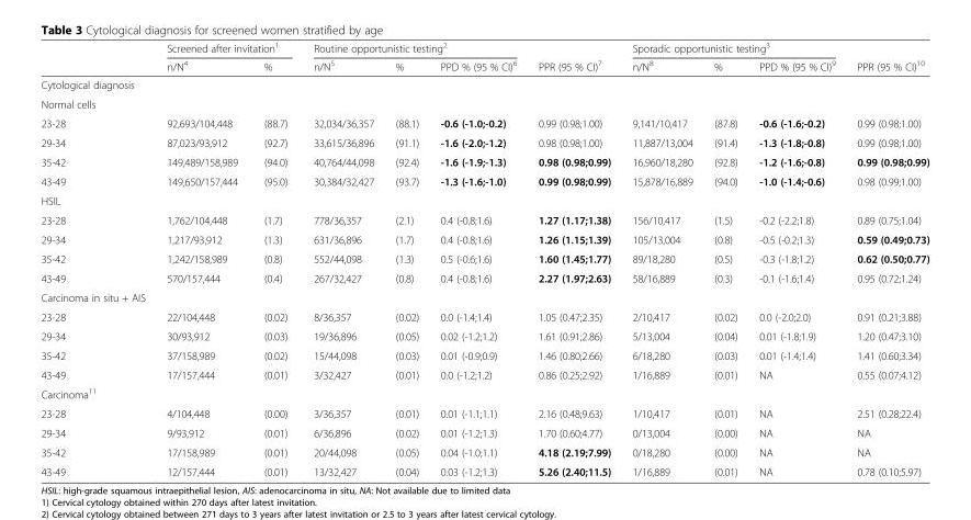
<table><thead><tr><td rowspan="2"></td><td colspan="2">Screened after invitation<sup>1</sup></td><td colspan="3">Routine opportunistic testing<sup>2</sup></td><td rowspan="2">PPR (95 % CI)<sup>7</sup></td><td colspan="3">Sporadic opportunistic testing<sup>3</sup></td><td rowspan="2">PPR (95 % CI)<sup>10</sup></td></tr><tr><td>n/N<sup>4</sup></td><td>%</td><td>n/N<sup>5</sup></td><td>%</td><td>PPD % (95 % CI)<sup>6</sup></td><td>n/N<sup>8</sup></td><td>%</td><td>PPD % (95 % CI)<sup>9</sup></td></tr></thead><tbody><tr><td colspan="11">Cytological diagnosis</td></tr><tr><td colspan="11">Normal cells</td></tr><tr><td>23-28</td><td>92,693/104,448</td><td>(88.7)</td><td>32,034/36,357</td><td>(88.1)</td><td>-0.6 (-1.0;-0.2)</td><td>0.99 (0.98;1.00)</td><td>9,141/10,417</td><td>(87.8)</td><td>-0.6 (-1.6;-0.2)</td><td>0.99 (0.98;1.00)</td></tr><tr><td>29-34</td><td>87,023/93,912</td><td>(92.7)</td><td>33,615/36,896</td><td>(91.1)</td><td>-1.6 (-2.0;-1.2)</td><td>0.98 (0.98;1.00)</td><td>11,887/13,004</td><td>(91.4)</td><td>-1.3 (-1.8;-0.8)</td><td>0.99 (0.98;1.00)</td></tr><tr><td>35-42</td><td>149,489/158,989</td><td>(94.0)</td><td>40,764/44,098</td><td>(92.4)</td><td>-1.6 (-1.9;-1.3)</td><td>0.98 (0.98;0.99)</td><td>16,960/18,280</td><td>(92.8)</td><td>-1.2 (-1.6;-0.8)</td><td>0.99 (0.98;0.99)</td></tr><tr><td>43-49</td><td>149,650/157,444</td><td>(95.0)</td><td>30,384/32,427</td><td>(93.7)</td><td>-1.3 (-1.6;-1.0)</td><td>0.99 (0.98;0.99)</td><td>15,878/16,889</td><td>(94.0)</td><td>-1.0 (-1.4;-0.6)</td><td>0.98 (0.99;1.00)</td></tr><tr><td colspan="11">HSIL</td></tr><tr><td>23-28</td><td>1,762/104,448</td><td>(1.7)</td><td>778/36,357</td><td>(2.1)</td><td>0.4 (-0.8;1.6)</td><td>1.27 (1.17;1.38)</td><td>156/10,417</td><td>(1.5)</td><td>-0.2 (-2.2;1.8)</td><td>0.89 (0.75;1.04)</td></tr><tr><td>29-34</td><td>1,217/93,912</td><td>(1.3)</td><td>631/36,896</td><td>(1.7)</td><td>0.4 (-0.8;1.6)</td><td>1.26 (1.15;1.39)</td><td>105/13,004</td><td>(0.8)</td><td>-0.5 (-0.2;1.3)</td><td>0.59 (0.49;0.73)</td></tr><tr><td>35-42</td><td>1,242/158,989</td><td>(0.8)</td><td>552/44,098</td><td>(1.3)</td><td>0.5 (-0.6;1.6)</td><td>1.60 (1.45;1.77)</td><td>89/18,280</td><td>(0.5)</td><td>-0.3 (-1.8;1.2)</td><td>0.62 (0.50;0.77)</td></tr><tr><td>43-49</td><td>570/157,444</td><td>(0.4)</td><td>267/32,427</td><td>(0.8)</td><td>0.4 (-0.8;1.6)</td><td>2.27 (1.97;2.63)</td><td>58/16,889</td><td>(0.3)</td><td>-0.1 (-1.6;1.4)</td><td>0.95 (0.72;1.24)</td></tr><tr><td colspan="11">Carcinoma in situ + AIS</td></tr><tr><td>23-28</td><td>22/104,448</td><td>(0.02)</td><td>8/36,357</td><td>(0.02)</td><td>0.0 (-1.4;1.4)</td><td>1.05 (0.47;2.35)</td><td>2/10,417</td><td>(0.02)</td><td>0.0 (-2.0;2.0)</td><td>0.91 (0.21;3.88)</td></tr><tr><td>29-34</td><td>30/93,912</td><td>(0.03)</td><td>19/36,896</td><td>(0.05)</td><td>0.02 (-1.2;1.2)</td><td>1.61 (0.91;2.86)</td><td>5/13,004</td><td>(0.04)</td><td>0.01 (-1.8;1.9)</td><td>1.20 (0.47;3.10)</td></tr><tr><td>35-42</td><td>37/158,989</td><td>(0.02)</td><td>15/44,098</td><td>(0.03)</td><td>0.01 (-0.9;0.9)</td><td>1.46 (0.80;2.66)</td><td>6/18,280</td><td>(0.03)</td><td>0.01 (-1.4;1.4)</td><td>1.41 (0.60;3.34)</td></tr><tr><td>43-49</td><td>17/157,444</td><td>(0.01)</td><td>3/32,427</td><td>(0.01)</td><td>0.0 (-1.2;1.2)</td><td>0.86 (0.25;2.92)</td><td>1/16,889</td><td>(0.01)</td><td>NA</td><td>0.55 (0.07;4.12)</td></tr><tr><td colspan="11">Carcinoma<sup>11</sup></td></tr><tr><td>23-28</td><td>4/104,448</td><td>(0.00)</td><td>3/36,357</td><td>(0.01)</td><td>0.01 (-1.1;1.1)</td><td>2.16 (0.48;9.63)</td><td>1/10,417</td><td>(0.01)</td><td>NA</td><td>2.51 (0.28;22.4)</td></tr><tr><td>29-34</td><td>9/93,912</td><td>(0.01)</td><td>6/36,896</td><td>(0.02)</td><td>0.01 (-1.2;1.3)</td><td>1.70 (0.60;4.77)</td><td>0/13,004</td><td>(0.00)</td><td>NA</td><td>NA</td></tr><tr><td>35-42</td><td>17/158,989</td><td>(0.01)</td><td>20/44,098</td><td>(0.05)</td><td>0.04 (-1.0;1.1)</td><td>4.18 (2.19;7.99)</td><td>0/18,280</td><td>(0.00)</td><td>NA</td><td>NA</td></tr><tr><td>43-49</td><td>12/157,444</td><td>(0.01)</td><td>13/32,427</td><td>(0.04)</td><td>0.03 (-1.2;1.3)</td><td>5.26 (2.40;11.5)</td><td>1/16,889</td><td>(0.01)</td><td>NA</td><td>0.78 (0.10;5.97)</td></tr></tbody></table>